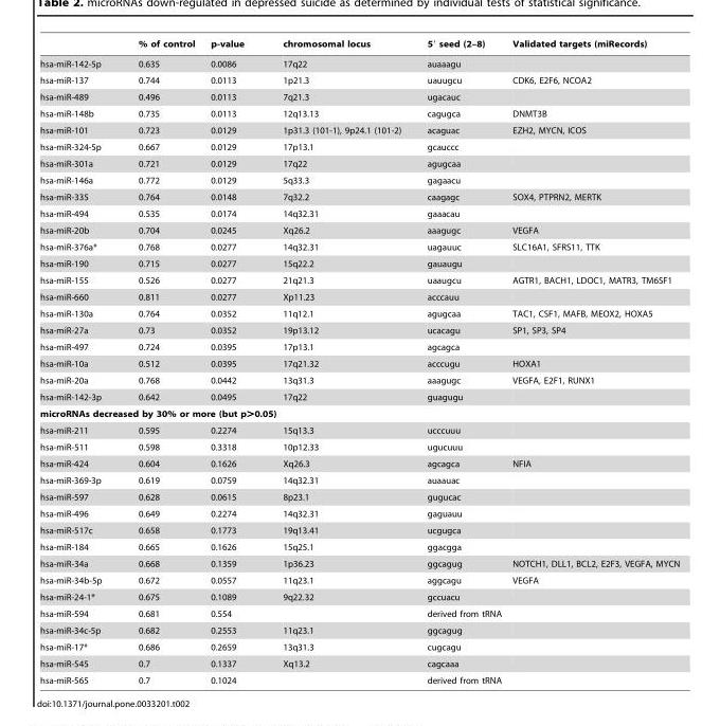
<table><thead><tr><td></td><td>% of control</td><td>p-value</td><td>chromosomal locus</td><td>5′ seed (2–8)</td><td>Validated targets (miRecords)</td></tr></thead><tbody><tr><td>hsa-miR-142-5p</td><td>0.635</td><td>0.0086</td><td>17q22</td><td>auaaagu</td><td></td></tr><tr><td>hsa-miR-137</td><td>0.744</td><td>0.0113</td><td>1p21.3</td><td>uauugcu</td><td>CDK6, E2F6, NCOA2</td></tr><tr><td>hsa-miR-489</td><td>0.496</td><td>0.0113</td><td>7q21.3</td><td>ugacauc</td><td></td></tr><tr><td>hsa-miR-148b</td><td>0.735</td><td>0.0113</td><td>12q13.13</td><td>cagugca</td><td>DNMT3B</td></tr><tr><td>hsa-miR-101</td><td>0.723</td><td>0.0129</td><td>1p31.3 (101-1), 9p24.1 (101-2)</td><td>acaguac</td><td>EZH2, MYCN, ICOS</td></tr><tr><td>hsa-miR-324-5p</td><td>0.667</td><td>0.0129</td><td>17p13.1</td><td>gcauccc</td><td></td></tr><tr><td>hsa-miR-301a</td><td>0.721</td><td>0.0129</td><td>17q22</td><td>agugcaa</td><td></td></tr><tr><td>hsa-miR-146a</td><td>0.772</td><td>0.0129</td><td>5q33.3</td><td>gagaacu</td><td></td></tr><tr><td>hsa-miR-335</td><td>0.764</td><td>0.0148</td><td>7q32.2</td><td>caagagc</td><td>SOX4, PTPRN2, MERTK</td></tr><tr><td>hsa-miR-494</td><td>0.535</td><td>0.0174</td><td>14q32.31</td><td>gaaacau</td><td></td></tr><tr><td>hsa-miR-20b</td><td>0.704</td><td>0.0245</td><td>Xq26.2</td><td>aaagugc</td><td>VEGFA</td></tr><tr><td>hsa-miR-376a*</td><td>0.768</td><td>0.0277</td><td>14q32.31</td><td>uagauuc</td><td>SLC16A1, SFRS11, TTK</td></tr><tr><td>hsa-miR-190</td><td>0.715</td><td>0.0277</td><td>15q22.2</td><td>gauaugu</td><td></td></tr><tr><td>hsa-miR-155</td><td>0.526</td><td>0.0277</td><td>21q21.3</td><td>uaaugcu</td><td>AGTR1, BACH1, LDOC1, MATR3, TM6SF1</td></tr><tr><td>hsa-miR-660</td><td>0.811</td><td>0.0277</td><td>Xp11.23</td><td>acccauu</td><td></td></tr><tr><td>hsa-miR-130a</td><td>0.764</td><td>0.0352</td><td>11q12.1</td><td>agugcaa</td><td>TAC1, CSF1, MAFB, MEOX2, HOXA5</td></tr><tr><td>hsa-miR-27a</td><td>0.73</td><td>0.0352</td><td>19p13.12</td><td>ucacagu</td><td>SP1, SP3, SP4</td></tr><tr><td>hsa-miR-497</td><td>0.724</td><td>0.0395</td><td>17p13.1</td><td>agcagca</td><td></td></tr><tr><td>hsa-miR-10a</td><td>0.512</td><td>0.0395</td><td>17q21.32</td><td>acccugu</td><td>HOXA1</td></tr><tr><td>hsa-miR-20a</td><td>0.768</td><td>0.0442</td><td>13q31.3</td><td>aaagugc</td><td>VEGFA, E2F1, RUNX1</td></tr><tr><td>hsa-miR-142-3p</td><td>0.642</td><td>0.0495</td><td>17q22</td><td>guagugu</td><td></td></tr><tr><td colspan="6">microRNAs decreased by 30% or more (but p&gt;0.05)</td></tr><tr><td>hsa-miR-211</td><td>0.595</td><td>0.2274</td><td>15q13.3</td><td>ucccuuu</td><td></td></tr><tr><td>hsa-miR-511</td><td>0.598</td><td>0.3318</td><td>10p12.33</td><td>ugucuuu</td><td></td></tr><tr><td>hsa-miR-424</td><td>0.604</td><td>0.1626</td><td>Xq26.3</td><td>agcagca</td><td>NFIA</td></tr><tr><td>hsa-miR-369-3p</td><td>0.619</td><td>0.0759</td><td>14q32.31</td><td>auaauac</td><td></td></tr><tr><td>hsa-miR-597</td><td>0.628</td><td>0.0615</td><td>8p23.1</td><td>gugucac</td><td></td></tr><tr><td>hsa-miR-496</td><td>0.649</td><td>0.2274</td><td>14q32.31</td><td>gaguauu</td><td></td></tr><tr><td>hsa-miR-517c</td><td>0.658</td><td>0.1773</td><td>19q13.41</td><td>ucgugca</td><td></td></tr><tr><td>hsa-miR-184</td><td>0.665</td><td>0.1626</td><td>15q25.1</td><td>ggacgga</td><td></td></tr><tr><td>hsa-miR-34a</td><td>0.668</td><td>0.1359</td><td>1p36.23</td><td>ggcagug</td><td>NOTCH1, DLL1, BCL2, E2F3, VEGFA, MYCN</td></tr><tr><td>hsa-miR-34b-5p</td><td>0.672</td><td>0.0557</td><td>11q23.1</td><td>aggcagu</td><td>VEGFA</td></tr><tr><td>hsa-miR-24-1*</td><td>0.675</td><td>0.1089</td><td>9q22.32</td><td>gccuacu</td><td></td></tr><tr><td>hsa-miR-594</td><td>0.681</td><td>0.554</td><td></td><td>derived from tRNA</td><td></td></tr><tr><td>hsa-miR-34c-5p</td><td>0.682</td><td>0.2553</td><td>11q23.1</td><td>ggcagug</td><td></td></tr><tr><td>hsa-miR-17*</td><td>0.686</td><td>0.2659</td><td>13q31.3</td><td>cugcagu</td><td></td></tr><tr><td>hsa-miR-545</td><td>0.7</td><td>0.1337</td><td>Xq13.2</td><td>cagcaaa</td><td></td></tr><tr><td>hsa-miR-565</td><td>0.7</td><td>0.1024</td><td></td><td>derived from tRNA</td><td></td></tr></tbody></table>